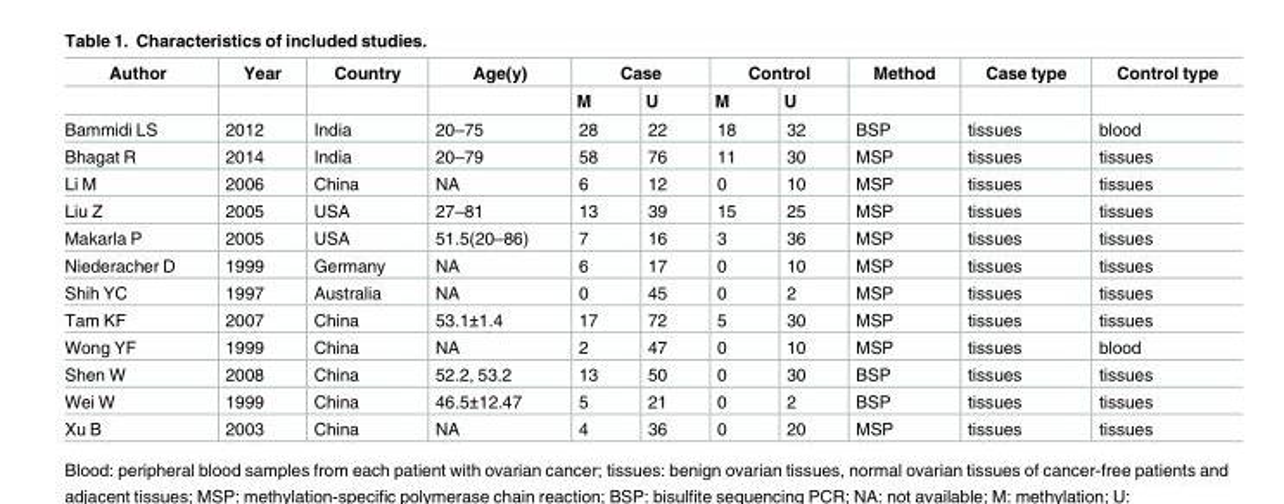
<table><thead><tr><td rowspan="2">Author</td><td rowspan="2">Year</td><td rowspan="2">Country</td><td rowspan="2">Age(y)</td><td colspan="2">Case</td><td colspan="2">Control</td><td rowspan="2">Method</td><td rowspan="2">Case type</td><td rowspan="2">Control type</td></tr><tr><td>M</td><td>U</td><td>M</td><td>U</td></tr></thead><tbody><tr><td>Bammidi LS</td><td>2012</td><td>India</td><td>20–75</td><td>28</td><td>22</td><td>18</td><td>32</td><td>BSP</td><td>tissues</td><td>blood</td></tr><tr><td>Bhagat R</td><td>2014</td><td>India</td><td>20–79</td><td>58</td><td>76</td><td>11</td><td>30</td><td>MSP</td><td>tissues</td><td>tissues</td></tr><tr><td>Li M</td><td>2006</td><td>China</td><td>NA</td><td>6</td><td>12</td><td>0</td><td>10</td><td>MSP</td><td>tissues</td><td>tissues</td></tr><tr><td>Liu Z</td><td>2005</td><td>USA</td><td>27–81</td><td>13</td><td>39</td><td>15</td><td>25</td><td>MSP</td><td>tissues</td><td>tissues</td></tr><tr><td>Makarla P</td><td>2005</td><td>USA</td><td>51.5(20–86)</td><td>7</td><td>16</td><td>3</td><td>36</td><td>MSP</td><td>tissues</td><td>tissues</td></tr><tr><td>Niederacher D</td><td>1999</td><td>Germany</td><td>NA</td><td>6</td><td>17</td><td>0</td><td>10</td><td>MSP</td><td>tissues</td><td>tissues</td></tr><tr><td>Shih YC</td><td>1997</td><td>Australia</td><td>NA</td><td>0</td><td>45</td><td>0</td><td>2</td><td>MSP</td><td>tissues</td><td>tissues</td></tr><tr><td>Tam KF</td><td>2007</td><td>China</td><td>53.1±1.4</td><td>17</td><td>72</td><td>5</td><td>30</td><td>MSP</td><td>tissues</td><td>tissues</td></tr><tr><td>Wong YF</td><td>1999</td><td>China</td><td>NA</td><td>2</td><td>47</td><td>0</td><td>10</td><td>MSP</td><td>tissues</td><td>blood</td></tr><tr><td>Shen W</td><td>2008</td><td>China</td><td>52.2, 53.2</td><td>13</td><td>50</td><td>0</td><td>30</td><td>BSP</td><td>tissues</td><td>tissues</td></tr><tr><td>Wei W</td><td>1999</td><td>China</td><td>46.5±12.47</td><td>5</td><td>21</td><td>0</td><td>2</td><td>BSP</td><td>tissues</td><td>tissues</td></tr><tr><td>Xu B</td><td>2003</td><td>China</td><td>NA</td><td>4</td><td>36</td><td>0</td><td>20</td><td>MSP</td><td>tissues</td><td>tissues</td></tr></tbody></table>